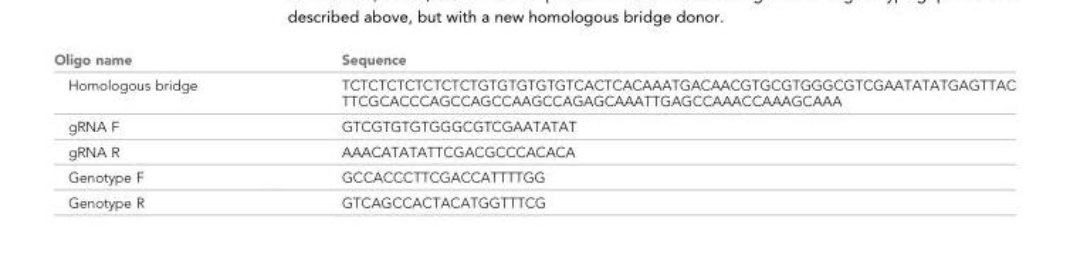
<table><thead><tr><td>Oligo name</td><td>Sequence</td></tr></thead><tbody><tr><td>Homologous bridge</td><td>TCTCTCTCTCTCTCTGTGTGTGTGTCACTCACAAATGACAACGTGCGTGGGCGTCGAATATATGAGTTAC TTCGCACCCAGCCAGCCAAGCCAGAGCAAATTGAGCCAAACCAAAGCAAA</td></tr><tr><td>gRNA F</td><td>GTCGTGTGTGGGCGTCGAATATAT</td></tr><tr><td>gRNA R</td><td>AAACATATATTCGACGCCCACACA</td></tr><tr><td>Genotype F</td><td>GCCACCCTTCGACCATTTTGG</td></tr><tr><td>Genotype R</td><td>GTCAGCCACTACATGGTTTCG</td></tr></tbody></table>